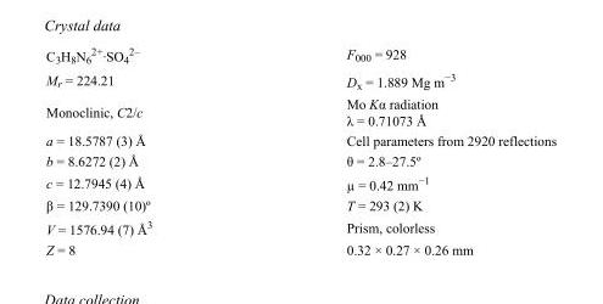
<table><tbody><tr><td>C<sub>3</sub>H<sub>8</sub>N<sub>6</sub> <sup>2+</sup>·SO<sub>4</sub> <sup>2–</sup></td><td>F<sub>000</sub> = 928</td></tr><tr><td>M<sub>r</sub> = 224.21</td><td>D<sub>x</sub> = 1.889 Mg m<sup>−3</sup></td></tr><tr><td>Monoclinic, C2/c</td><td>Mo Kα radiation λ = 0.71073 Å</td></tr><tr><td>a = 18.5787 (3) Å</td><td>Cell parameters from 2920 reflections</td></tr><tr><td>b = 8.6272 (2) Å</td><td>θ = 2.8–27.5º</td></tr><tr><td>c = 12.7945 (4) Å</td><td>µ = 0.42 mm<sup>−1</sup></td></tr><tr><td>β = 129.7390 (10)º</td><td>T = 293 (2) K</td></tr><tr><td>V = 1576.94 (7) Å<sup>3</sup></td><td>Prism, colorless</td></tr><tr><td>Z = 8</td><td>0.32 × 0.27 × 0.26 mm</td></tr></tbody></table>